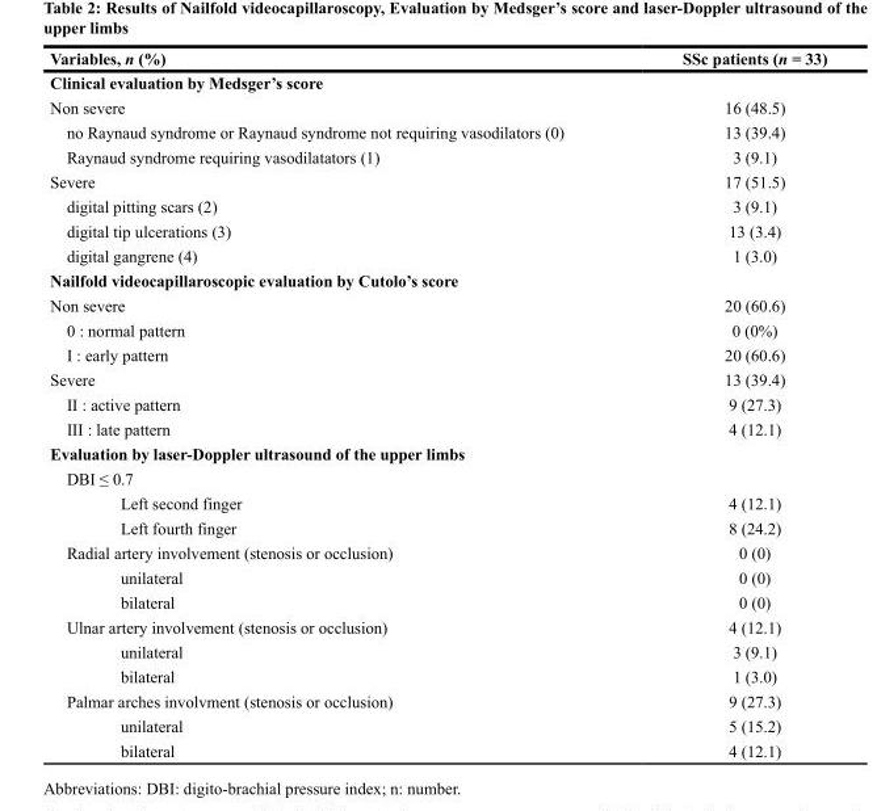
<table><thead><tr><td>Variables, n (%)</td><td>SSc patients (n = 33)</td></tr></thead><tbody><tr><td colspan="2">Clinical evaluation by Medsger’s score</td></tr><tr><td>Non severe</td><td>16 (48.5)</td></tr><tr><td>no Raynaud syndrome or Raynaud syndrome not requiring vasodilators (0)</td><td>13 (39.4)</td></tr><tr><td>Raynaud syndrome requiring vasodilatators (1)</td><td>3 (9.1)</td></tr><tr><td>Severe</td><td>17 (51.5)</td></tr><tr><td>digital pitting scars (2)</td><td>3 (9.1)</td></tr><tr><td>digital tip ulcerations (3)</td><td>13 (3.4)</td></tr><tr><td>digital gangrene (4)</td><td>1 (3.0)</td></tr><tr><td colspan="2">Nailfold videocapillaroscopic evaluation by Cutolo’s score</td></tr><tr><td>Non severe</td><td>20 (60.6)</td></tr><tr><td>0 : normal pattern</td><td>0 (0%)</td></tr><tr><td>I : early pattern</td><td>20 (60.6)</td></tr><tr><td>Severe</td><td>13 (39.4)</td></tr><tr><td>II : active pattern</td><td>9 (27.3)</td></tr><tr><td>III : late pattern</td><td>4 (12.1)</td></tr><tr><td colspan="2">Evaluation by laser-Doppler ultrasound of the upper limbs</td></tr><tr><td colspan="2">DBI ≤ 0.7</td></tr><tr><td>Left second finger</td><td>4 (12.1)</td></tr><tr><td>Left fourth finger</td><td>8 (24.2)</td></tr><tr><td>Radial artery involvement (stenosis or occlusion)</td><td>0 (0)</td></tr><tr><td>unilateral</td><td>0 (0)</td></tr><tr><td>bilateral</td><td>0 (0)</td></tr><tr><td>Ulnar artery involvement (stenosis or occlusion)</td><td>4 (12.1)</td></tr><tr><td>unilateral</td><td>3 (9.1)</td></tr><tr><td>bilateral</td><td>1 (3.0)</td></tr><tr><td>Palmar arches involvment (stenosis or occlusion)</td><td>9 (27.3)</td></tr><tr><td>unilateral</td><td>5 (15.2)</td></tr><tr><td>bilateral</td><td>4 (12.1)</td></tr></tbody></table>